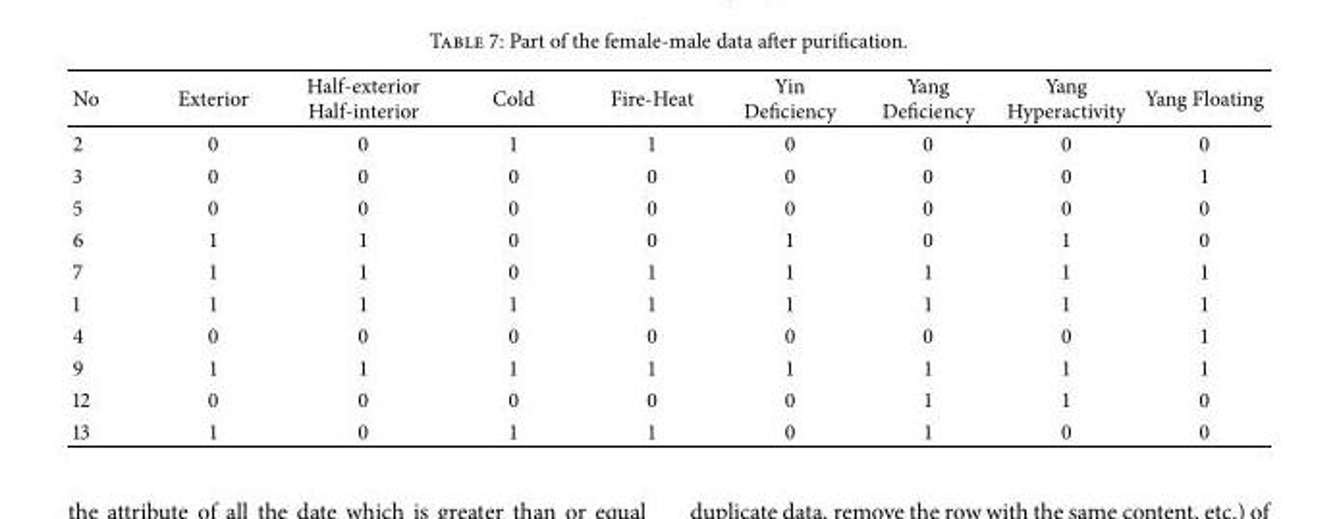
<table><thead><tr><td>No</td><td>Exterior</td><td>Half-exterior Half-interior</td><td>Cold</td><td>Fire-Heat</td><td>Yin Deficiency</td><td>Yang Deficiency</td><td>Yang Hyperactivity</td><td>Yang Floating</td></tr></thead><tbody><tr><td>2</td><td>0</td><td>0</td><td>1</td><td>1</td><td>0</td><td>0</td><td>0</td><td>0</td></tr><tr><td>3</td><td>0</td><td>0</td><td>0</td><td>0</td><td>0</td><td>0</td><td>0</td><td>1</td></tr><tr><td>5</td><td>0</td><td>0</td><td>0</td><td>0</td><td>0</td><td>0</td><td>0</td><td>0</td></tr><tr><td>6</td><td>1</td><td>1</td><td>0</td><td>0</td><td>1</td><td>0</td><td>1</td><td>0</td></tr><tr><td>7</td><td>1</td><td>1</td><td>0</td><td>1</td><td>1</td><td>1</td><td>1</td><td>1</td></tr><tr><td>1</td><td>1</td><td>1</td><td>1</td><td>1</td><td>1</td><td>1</td><td>1</td><td>1</td></tr><tr><td>4</td><td>0</td><td>0</td><td>0</td><td>0</td><td>0</td><td>0</td><td>0</td><td>1</td></tr><tr><td>9</td><td>1</td><td>1</td><td>1</td><td>1</td><td>1</td><td>1</td><td>1</td><td>1</td></tr><tr><td>12</td><td>0</td><td>0</td><td>0</td><td>0</td><td>0</td><td>1</td><td>1</td><td>0</td></tr><tr><td>13</td><td>1</td><td>0</td><td>1</td><td>1</td><td>0</td><td>1</td><td>0</td><td>0</td></tr></tbody></table>